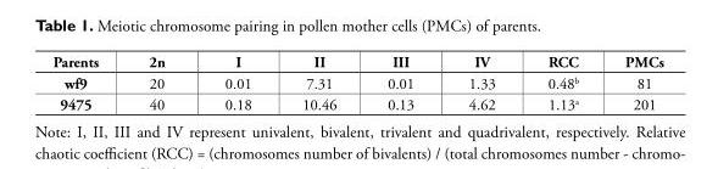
<table><thead><tr><td>Parents</td><td>2n</td><td>I</td><td>II</td><td>III</td><td>IV</td><td>RCC</td><td>PMCs</td></tr></thead><tbody><tr><td>wf9</td><td>20</td><td>0.01</td><td>7.31</td><td>0.01</td><td>1.33</td><td>0.48<sup>b</sup></td><td>81</td></tr><tr><td>9475</td><td>40</td><td>0.18</td><td>10.46</td><td>0.13</td><td>4.62</td><td>1.13<sup>a</sup></td><td>201</td></tr></tbody></table>